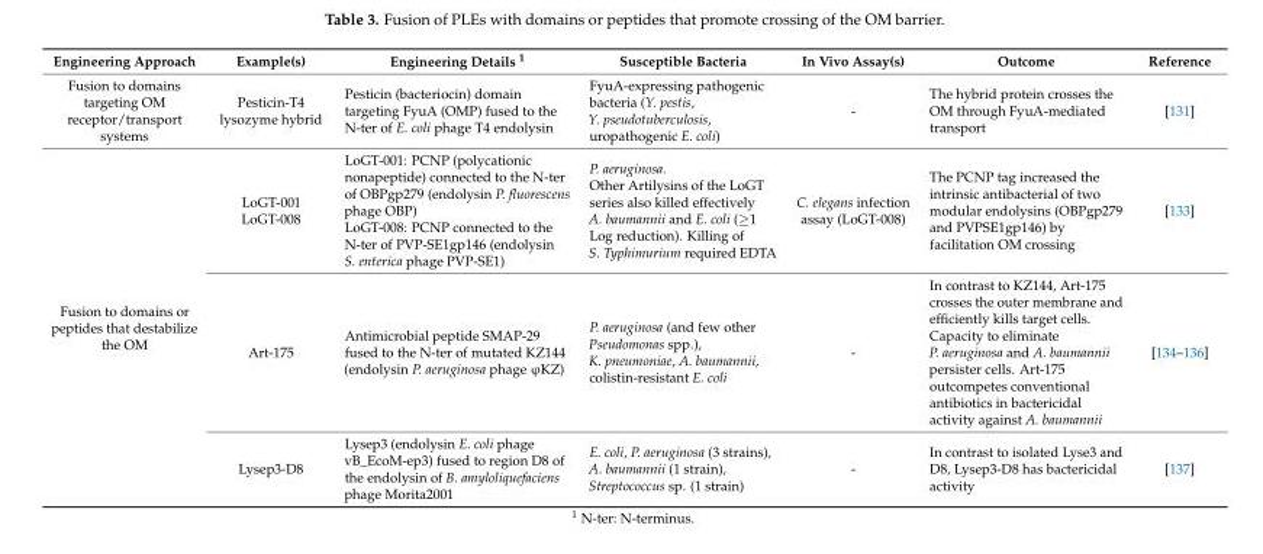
<table><thead><tr><td>Engineering Approach</td><td>Example(s)</td><td>Engineering Details <sup>1</sup></td><td>Susceptible Bacteria</td><td>In Vivo Assay(s)</td><td>Outcome</td><td>Reference</td></tr></thead><tbody><tr><td>Fusion to domains targeting OM receptor/transport systems</td><td>Pesticin-T4 lysozyme hybrid</td><td>Pesticin (bacteriocin) domain targeting FyuA (OMP) fused to the N-ter of E. coli phage T4 endolysin</td><td>FyuA-expressing pathogenic bacteria (Y. pestis, Y. pseudotuberculosis, uropathogenic E. coli)</td><td>-</td><td>The hybrid protein crosses the OM through FyuA-mediated transport</td><td>[131]</td></tr><tr><td rowspan="3">Fusion to domains or peptides that destabilize the OM</td><td>LoGT-001 LoGT-008</td><td>LoGT-001: PCNP (polycationic nonapeptide) connected to the N-ter of OBPgp279 (endolysin P. fluorescens phage OBP) LoGT-008: PCNP connected to the N-ter of PVP-SE1gp146 (endolysin S. enterica phage PVP-SE1)</td><td>P. aeruginosa. Other Artilysins of the LoGT series also killed effectively A. baumannii and E. coli (≥1 Log reduction). Killing of S. Typhimurium required EDTA</td><td>C. elegans infection assay (LoGT-008)</td><td>The PCNP tag increased the intrinsic antibacterial of two modular endolysins (OBPgp279 and PVPSE1gp146) by facilitation OM crossing</td><td>[133]</td></tr><tr><td>Art-175</td><td>Antimicrobial peptide SMAP-29 fused to the N-ter of mutated KZ144 (endolysin P. aeruginosa phage ϕKZ)</td><td>P. aeruginosa (and few other Pseudomonas spp.), K. pneumoniae, A. baumannii, colistin-resistant E. coli</td><td>-</td><td>In contrast to KZ144, Art-175 crosses the outer membrane and efficiently kills target cells. Capacity to eliminate P. aeruginosa and A. baumannii persister cells. Art-175 outcompetes conventional antibiotics in bactericidal activity against A. baumannii</td><td>[134–136]</td></tr><tr><td>Lysep3-D8</td><td>Lysep3 (endolysin E. coli phage vB_EcoM-ep3) fused to region D8 of the endolysin of B. amyloliquefaciens phage Morita2001</td><td>E. coli, P. aeruginosa (3 strains), A. baumannii (1 strain), Streptococcus sp. (1 strain)</td><td>-</td><td>In contrast to isolated Lyse3 and D8, Lysep3-D8 has bactericidal activity</td><td>[137]</td></tr></tbody></table>